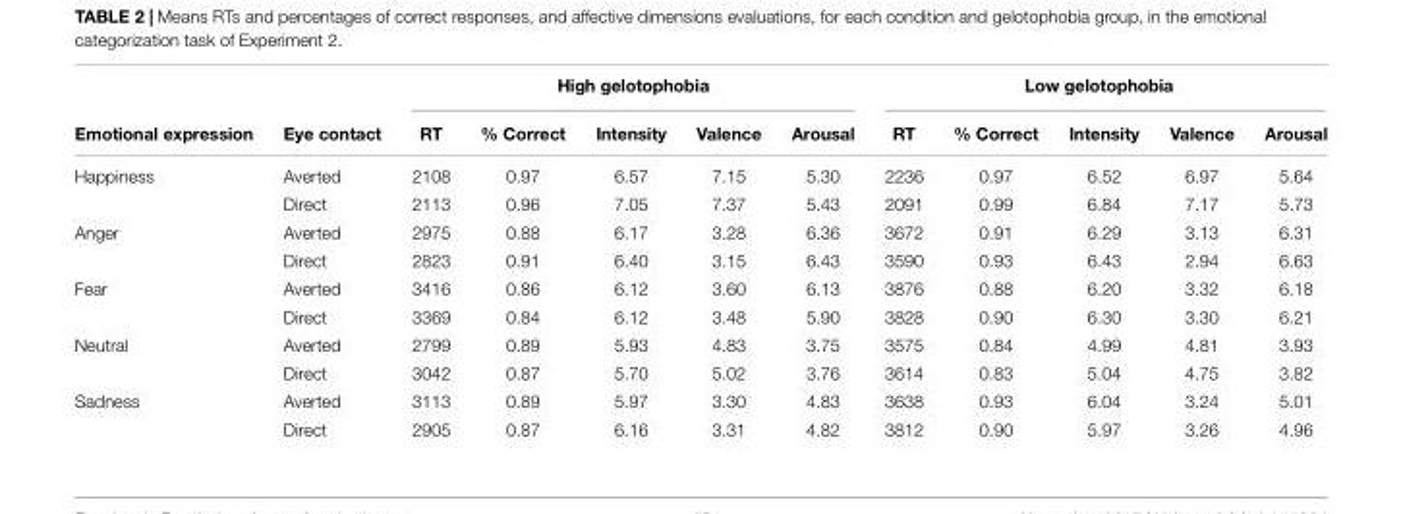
<table><thead><tr><td rowspan="2">Emotional expression</td><td rowspan="2">Eye contact</td><td colspan="5">High gelotophobia</td><td colspan="5">Low gelotophobia</td></tr><tr><td>RT</td><td>% Correct</td><td>Intensity</td><td>Valence</td><td>Arousal</td><td>RT</td><td>% Correct</td><td>Intensity</td><td>Valence</td><td>Arousal</td></tr></thead><tbody><tr><td rowspan="2">Happiness</td><td>Averted</td><td>2108</td><td>0.97</td><td>6.57</td><td>7.15</td><td>5.30</td><td>2236</td><td>0.97</td><td>6.52</td><td>6.97</td><td>5.64</td></tr><tr><td>Direct</td><td>2113</td><td>0.96</td><td>7.05</td><td>7.37</td><td>5.43</td><td>2091</td><td>0.99</td><td>6.84</td><td>7.17</td><td>5.73</td></tr><tr><td rowspan="2">Anger</td><td>Averted</td><td>2975</td><td>0.88</td><td>6.17</td><td>3.28</td><td>6.36</td><td>3672</td><td>0.91</td><td>6.29</td><td>3.13</td><td>6.31</td></tr><tr><td>Direct</td><td>2823</td><td>0.91</td><td>6.40</td><td>3.15</td><td>6.43</td><td>3590</td><td>0.93</td><td>6.43</td><td>2.94</td><td>6.63</td></tr><tr><td rowspan="2">Fear</td><td>Averted</td><td>3416</td><td>0.86</td><td>6.12</td><td>3.60</td><td>6.13</td><td>3876</td><td>0.88</td><td>6.20</td><td>3.32</td><td>6.18</td></tr><tr><td>Direct</td><td>3369</td><td>0.84</td><td>6.12</td><td>3.48</td><td>5.90</td><td>3828</td><td>0.90</td><td>6.30</td><td>3.30</td><td>6.21</td></tr><tr><td rowspan="2">Neutral</td><td>Averted</td><td>2799</td><td>0.89</td><td>5.93</td><td>4.83</td><td>3.75</td><td>3575</td><td>0.84</td><td>4.99</td><td>4.81</td><td>3.93</td></tr><tr><td>Direct</td><td>3042</td><td>0.87</td><td>5.70</td><td>5.02</td><td>3.76</td><td>3614</td><td>0.83</td><td>5.04</td><td>4.75</td><td>3.82</td></tr><tr><td rowspan="2">Sadness</td><td>Averted</td><td>3113</td><td>0.89</td><td>5.97</td><td>3.30</td><td>4.83</td><td>3638</td><td>0.93</td><td>6.04</td><td>3.24</td><td>5.01</td></tr><tr><td>Direct</td><td>2905</td><td>0.87</td><td>6.16</td><td>3.31</td><td>4.82</td><td>3812</td><td>0.90</td><td>5.97</td><td>3.26</td><td>4.96</td></tr></tbody></table>